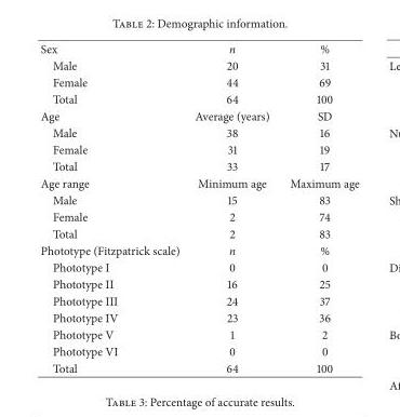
<table><tbody><tr><td>Sex</td><td>n</td><td>%</td></tr><tr><td>Male</td><td>20</td><td>31</td></tr><tr><td>Female</td><td>44</td><td>69</td></tr><tr><td>Total</td><td>64</td><td>100</td></tr><tr><td>Age</td><td>Average (years)</td><td>SD</td></tr><tr><td>Male</td><td>38</td><td>16</td></tr><tr><td>Female</td><td>31</td><td>19</td></tr><tr><td>Total</td><td>33</td><td>17</td></tr><tr><td>Age range</td><td>Minimum age</td><td>Maximum age</td></tr><tr><td>Male</td><td>15</td><td>83</td></tr><tr><td>Female</td><td>2</td><td>74</td></tr><tr><td>Total</td><td>2</td><td>83</td></tr><tr><td>Phototype (Fitzpatrick scale)</td><td>n</td><td>%</td></tr><tr><td>Phototype I</td><td>0</td><td>0</td></tr><tr><td>Phototype II</td><td>16</td><td>25</td></tr><tr><td>Phototype III</td><td>24</td><td>37</td></tr><tr><td>Phototype IV</td><td>23</td><td>36</td></tr><tr><td>Phototype V</td><td>1</td><td>2</td></tr><tr><td>Phototype VI</td><td>0</td><td>0</td></tr><tr><td>Total</td><td>64</td><td>100</td></tr></tbody></table>